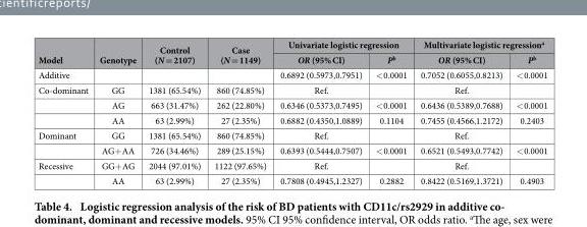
<table><thead><tr><td rowspan="2">Model</td><td rowspan="2">Genotype</td><td rowspan="2">Control (N = 2107)</td><td rowspan="2">Case (N = 1149)</td><td colspan="2">Univariate logistic regression</td><td colspan="2">Multivariate logistic regression<sup>a</sup></td></tr><tr><td>OR (95% CI)</td><td>P<sup>b</sup></td><td>OR (95% CI)</td><td>P<sup>b</sup></td></tr></thead><tbody><tr><td>Additive</td><td></td><td></td><td></td><td>0.6892 (0.5973,0.7951)</td><td>&lt; 0.0001</td><td>0.7052 (0.6055,0.8213)</td><td>&lt; 0.0001</td></tr><tr><td rowspan="3">Co-dominant</td><td>GG</td><td>1381 (65.54%)</td><td>860 (74.85%)</td><td>Ref.</td><td></td><td>Ref.</td><td></td></tr><tr><td>AG</td><td>663 (31.47%)</td><td>262 (22.80%)</td><td>0.6346 (0.5373,0.7495)</td><td>&lt; 0.0001</td><td>0.6436 (0.5389,0.7688)</td><td>&lt; 0.0001</td></tr><tr><td>AA</td><td>63 (2.99%)</td><td>27 (2.35%)</td><td>0.6882 (0.4350,1.0889)</td><td>0.1104</td><td>0.7455 (0.4566,1.2172)</td><td>0.2403</td></tr><tr><td rowspan="2">Dominant</td><td>GG</td><td>1381 (65.54%)</td><td>860 (74.85%)</td><td>Ref.</td><td></td><td>Ref.</td><td></td></tr><tr><td>AG+ AA</td><td>726 (34.46%)</td><td>289 (25.15%)</td><td>0.6393 (0.5444,0.7507)</td><td>&lt; 0.0001</td><td>0.6521 (0.5493,0.7742)</td><td>&lt; 0.0001</td></tr><tr><td rowspan="2">Recessive</td><td>GG+ AG</td><td>2044 (97.01%)</td><td>1122 (97.65%)</td><td>Ref.</td><td></td><td>Ref.</td><td></td></tr><tr><td>AA</td><td>63 (2.99%)</td><td>27 (2.35%)</td><td>0.7808 (0.4945,1.2327)</td><td>0.2882</td><td>0.8422 (0.5169,1.3721)</td><td>0.4903</td></tr></tbody></table>